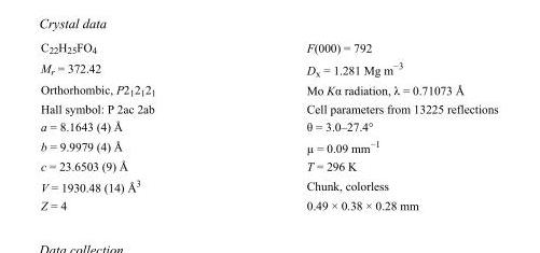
<table><tbody><tr><td>C<sub>22</sub>H<sub>25</sub>FO<sub>4</sub></td><td>F(000) = 792</td></tr><tr><td>M<sub>r</sub> = 372.42</td><td>D<sub>x</sub> = 1.281 Mg m<sup>−3</sup></td></tr><tr><td>Orthorhombic, P2<sub>1</sub>2<sub>1</sub>2<sub>1</sub></td><td>Mo Kα radiation, λ = 0.71073 Å</td></tr><tr><td>Hall symbol: P 2ac 2ab</td><td>Cell parameters from 13225 reflections</td></tr><tr><td>a = 8.1643 (4) Å</td><td>θ = 3.0–27.4°</td></tr><tr><td>b = 9.9979 (4) Å</td><td>µ = 0.09 mm<sup>−1</sup></td></tr><tr><td>c = 23.6503 (9) Å</td><td>T = 296 K</td></tr><tr><td>V = 1930.48 (14) Å<sup>3</sup></td><td>Chunk, colorless</td></tr><tr><td>Z = 4</td><td>0.49 × 0.38 × 0.28 mm</td></tr></tbody></table>